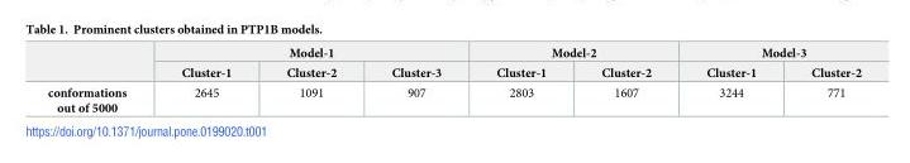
<table><thead><tr><td rowspan="2"></td><td colspan="3">Model-1</td><td colspan="2">Model-2</td><td colspan="2">Model-3</td></tr><tr><td>Cluster-1</td><td>Cluster-2</td><td>Cluster-3</td><td>Cluster-1</td><td>Cluster-2</td><td>Cluster-1</td><td>Cluster-2</td></tr></thead><tbody><tr><td>conformations out of 5000</td><td>2645</td><td>1091</td><td>907</td><td>2803</td><td>1607</td><td>3244</td><td>771</td></tr></tbody></table>